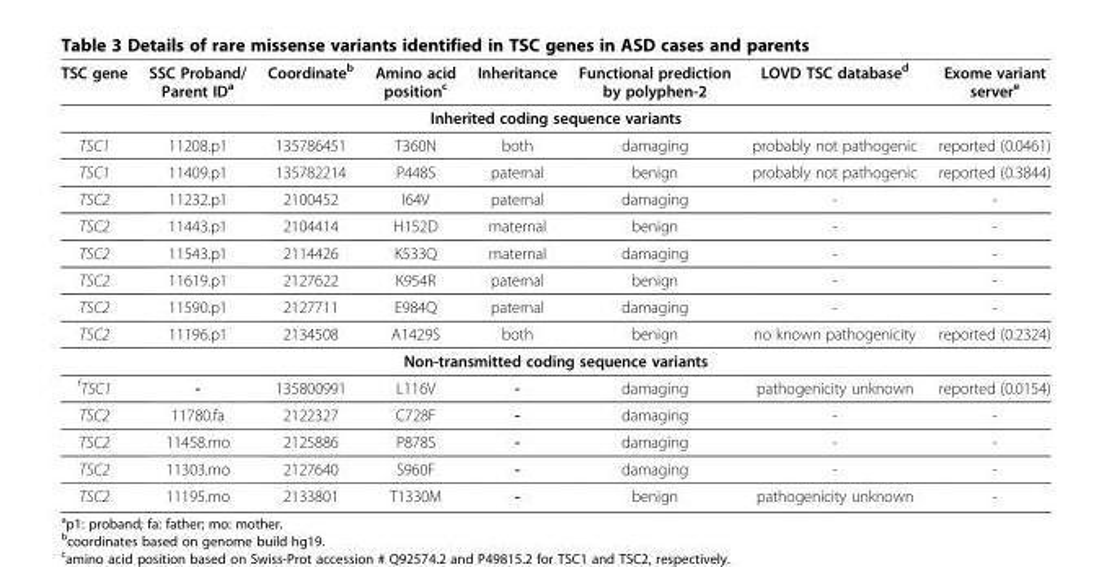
<table><thead><tr><td>TSC gene</td><td>SSC Proband/ Parent ID<sup>a</sup></td><td>Coordinate<sup>b</sup></td><td>Amino acid position<sup>c</sup></td><td>Inheritance</td><td>Functional prediction by polyphen-2</td><td>LOVD TSC database<sup>d</sup></td><td>Exome variant server<sup>e</sup></td></tr></thead><tbody><tr><td colspan="8">Inherited coding sequence variants</td></tr><tr><td>TSC1</td><td>11208.p1</td><td>135786451</td><td>T360N</td><td>both</td><td>damaging</td><td>probably not pathogenic</td><td>reported (0.0461)</td></tr><tr><td>TSC1</td><td>11409.p1</td><td>135782214</td><td>P448S</td><td>paternal</td><td>benign</td><td>probably not pathogenic</td><td>reported (0.3844)</td></tr><tr><td>TSC2</td><td>11232.p1</td><td>2100452</td><td>I64V</td><td>paternal</td><td>damaging</td><td>-</td><td>-</td></tr><tr><td>TSC2</td><td>11443.p1</td><td>2104414</td><td>H152D</td><td>maternal</td><td>benign</td><td>-</td><td>-</td></tr><tr><td>TSC2</td><td>11543.p1</td><td>2114426</td><td>K533Q</td><td>maternal</td><td>damaging</td><td>-</td><td>-</td></tr><tr><td>TSC2</td><td>11619.p1</td><td>2127622</td><td>K954R</td><td>paternal</td><td>benign</td><td>-</td><td>-</td></tr><tr><td>TSC2</td><td>11590.p1</td><td>2127711</td><td>E984Q</td><td>paternal</td><td>damaging</td><td>-</td><td>-</td></tr><tr><td>TSC2</td><td>11196.p1</td><td>2134508</td><td>A1429S</td><td>both</td><td>benign</td><td>no known pathogenicity</td><td>reported (0.2324)</td></tr><tr><td colspan="8">Non-transmitted coding sequence variants</td></tr><tr><td><sup>f</sup>TSC1</td><td>-</td><td>135800991</td><td>L116V</td><td>-</td><td>damaging</td><td>pathogenicity unknown</td><td>reported (0.0154)</td></tr><tr><td>TSC2</td><td>11780.fa</td><td>2122327</td><td>C728F</td><td>-</td><td>damaging</td><td>-</td><td>-</td></tr><tr><td>TSC2</td><td>11458.mo</td><td>2125886</td><td>P878S</td><td>-</td><td>damaging</td><td>-</td><td>-</td></tr><tr><td>TSC2</td><td>11303.mo</td><td>2127640</td><td>S960F</td><td>-</td><td>damaging</td><td>-</td><td>-</td></tr><tr><td>TSC2</td><td>11195.mo</td><td>2133801</td><td>T1330M</td><td>-</td><td>benign</td><td>pathogenicity unknown</td><td>-</td></tr></tbody></table>